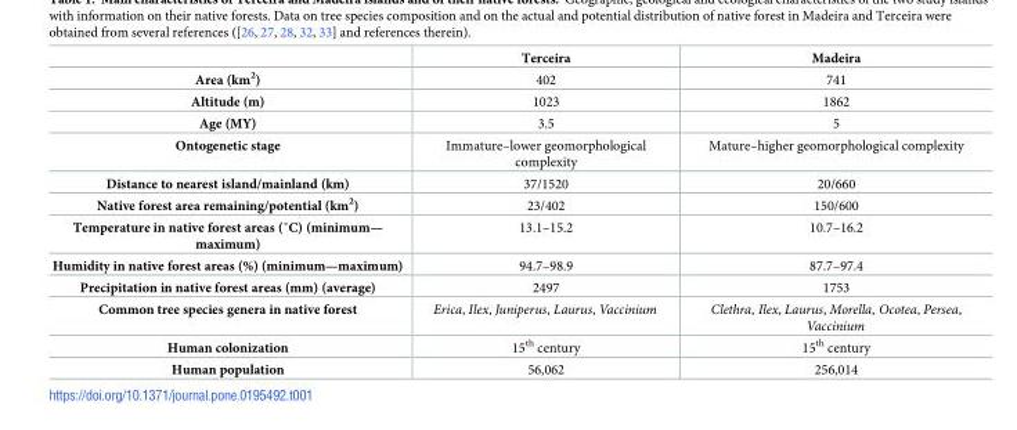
<table><thead><tr><td></td><td>Terceira</td><td>Madeira</td></tr></thead><tbody><tr><td>Area (km<sup>2</sup>)</td><td>402</td><td>741</td></tr><tr><td>Altitude (m)</td><td>1023</td><td>1862</td></tr><tr><td>Age (MY)</td><td>3.5</td><td>5</td></tr><tr><td>Ontogenetic stage</td><td>Immature–lower geomorphological complexity</td><td>Mature–higher geomorphological complexity</td></tr><tr><td>Distance to nearest island/mainland (km)</td><td>37/1520</td><td>20/660</td></tr><tr><td>Native forest area remaining/potential (km<sup>2</sup>)</td><td>23/402</td><td>150/600</td></tr><tr><td>Temperature in native forest areas (˚C) (minimum— maximum)</td><td>13.1–15.2</td><td>10.7–16.2</td></tr><tr><td>Humidity in native forest areas (%) (minimum—maximum)</td><td>94.7–98.9</td><td>87.7–97.4</td></tr><tr><td>Precipitation in native forest areas (mm) (average)</td><td>2497</td><td>1753</td></tr><tr><td>Common tree species genera in native forest</td><td>Erica, Ilex, Juniperus, Laurus, Vaccinium</td><td>Clethra, Ilex, Laurus, Morella, Ocotea, Persea, Vaccinium</td></tr><tr><td>Human colonization</td><td>15<sup>th</sup> century</td><td>15<sup>th</sup> century</td></tr><tr><td>Human population</td><td>56,062</td><td>256,014</td></tr></tbody></table>